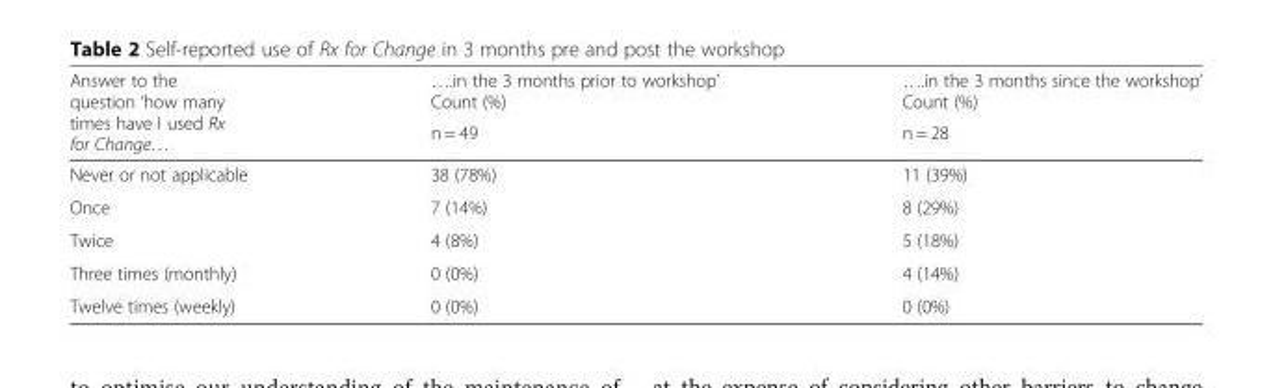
<table><thead><tr><td rowspan="2">Answer to the question ‘how many times have I used Rx for Change…</td><td rowspan="2">….in the 3 months prior to workshop’ Count (%) n = 49</td><td rowspan="2">….in the 3 months since the workshop’ Count (%) n = 28</td></tr><tr></tr></thead><tbody><tr><td>Never or not applicable</td><td>38 (78%)</td><td>11 (39%)</td></tr><tr><td>Once</td><td>7 (14%)</td><td>8 (29%)</td></tr><tr><td>Twice</td><td>4 (8%)</td><td>5 (18%)</td></tr><tr><td>Three times (monthly)</td><td>0 (0%)</td><td>4 (14%)</td></tr><tr><td>Twelve times (weekly)</td><td>0 (0%)</td><td>0 (0%)</td></tr></tbody></table>